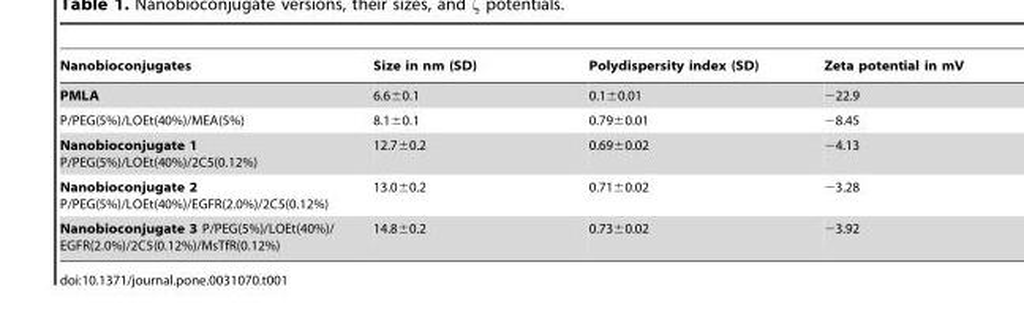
<table><thead><tr><td>Nanobioconjugates</td><td>Size in nm (SD)</td><td>Polydispersity index (SD)</td><td>Zeta potential in mV</td></tr></thead><tbody><tr><td>PMLA</td><td>6.6±0.1</td><td>0.1±0.01</td><td>−22.9</td></tr><tr><td>P/PEG(5%)/LOEt(40%)/MEA(5%)</td><td>8.1±0.1</td><td>0.79±0.01</td><td>−8.45</td></tr><tr><td>Nanobioconjugate 1 P/PEG(5%)/LOEt(40%)/2C5(0.12%)</td><td>12.7±0.2</td><td>0.69±0.02</td><td>−4.13</td></tr><tr><td>Nanobioconjugate 2 P/PEG(5%)/LOEt(40%)/EGFR(2.0%)/2C5(0.12%)</td><td>13.0±0.2</td><td>0.71±0.02</td><td>−3.28</td></tr><tr><td>Nanobioconjugate 3 P/PEG(5%)/LOEt(40%)/ EGFR(2.0%)/2C5(0.12%)/MsTfR(0.12%)</td><td>14.8±0.2</td><td>0.73±0.02</td><td>−3.92</td></tr></tbody></table>